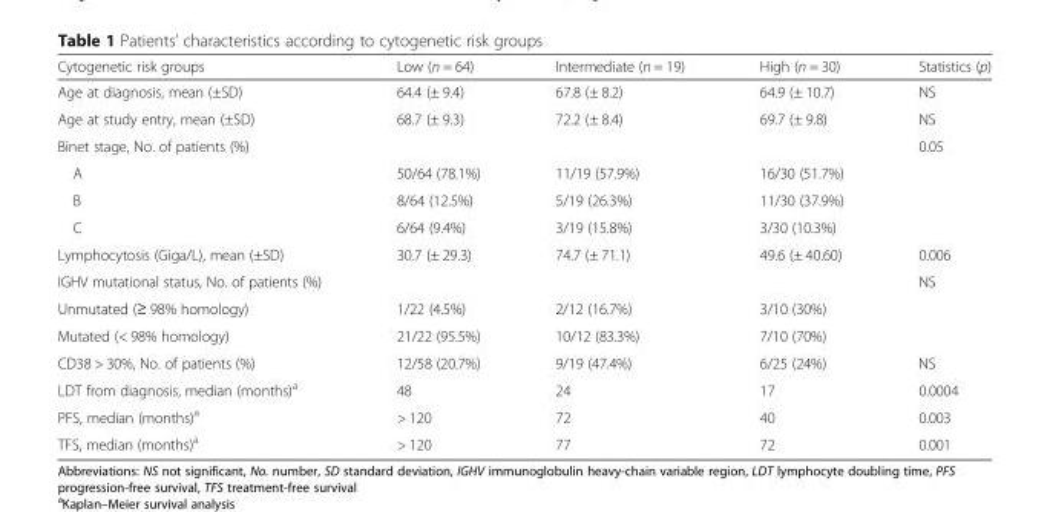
<table><thead><tr><td>Cytogenetic risk groups</td><td>Low (n = 64)</td><td>Intermediate (n = 19)</td><td>High (n = 30)</td><td>Statistics (p)</td></tr></thead><tbody><tr><td>Age at diagnosis, mean (±SD)</td><td>64.4 (± 9.4)</td><td>67.8 (± 8.2)</td><td>64.9 (± 10.7)</td><td>NS</td></tr><tr><td>Age at study entry, mean (±SD)</td><td>68.7 (± 9.3)</td><td>72.2 (± 8.4)</td><td>69.7 (± 9.8)</td><td>NS</td></tr><tr><td>Binet stage, No. of patients (%)</td><td></td><td></td><td></td><td>0.05</td></tr><tr><td>A</td><td>50/64 (78.1%)</td><td>11/19 (57.9%)</td><td>16/30 (51.7%)</td><td></td></tr><tr><td>B</td><td>8/64 (12.5%)</td><td>5/19 (26.3%)</td><td>11/30 (37.9%)</td><td></td></tr><tr><td>C</td><td>6/64 (9.4%)</td><td>3/19 (15.8%)</td><td>3/30 (10.3%)</td><td></td></tr><tr><td>Lymphocytosis (Giga/L), mean (±SD)</td><td>30.7 (± 29.3)</td><td>74.7 (± 71.1)</td><td>49.6 (± 40.60)</td><td>0.006</td></tr><tr><td>IGHV mutational status, No. of patients (%)</td><td></td><td></td><td></td><td>NS</td></tr><tr><td>Unmutated (≥ 98% homology)</td><td>1/22 (4.5%)</td><td>2/12 (16.7%)</td><td>3/10 (30%)</td><td></td></tr><tr><td>Mutated (&lt; 98% homology)</td><td>21/22 (95.5%)</td><td>10/12 (83.3%)</td><td>7/10 (70%)</td><td></td></tr><tr><td>CD38 &gt; 30%, No. of patients (%)</td><td>12/58 (20.7%)</td><td>9/19 (47.4%)</td><td>6/25 (24%)</td><td>NS</td></tr><tr><td>LDT from diagnosis, median (months)<sup>a</sup></td><td>48</td><td>24</td><td>17</td><td>0.0004</td></tr><tr><td>PFS, median (months)<sup>a</sup></td><td>&gt; 120</td><td>72</td><td>40</td><td>0.003</td></tr><tr><td>TFS, median (months)<sup>a</sup></td><td>&gt; 120</td><td>77</td><td>72</td><td>0.001</td></tr></tbody></table>